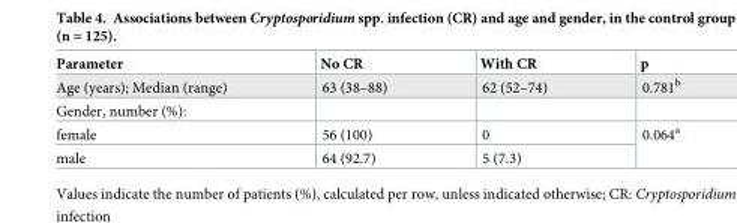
<table><thead><tr><td>Parameter</td><td>No CR</td><td>With CR</td><td>p</td></tr></thead><tbody><tr><td>Age (years); Median (range)</td><td>63 (38–88)</td><td>62 (52–74)</td><td>0.781<sup>b</sup></td></tr><tr><td colspan="4">Gender, number (%):</td></tr><tr><td>female</td><td>56 (100)</td><td>0</td><td rowspan="2">0.064<sup>a</sup></td></tr><tr><td>male</td><td>64 (92.7)</td><td>5 (7.3)</td></tr></tbody></table>